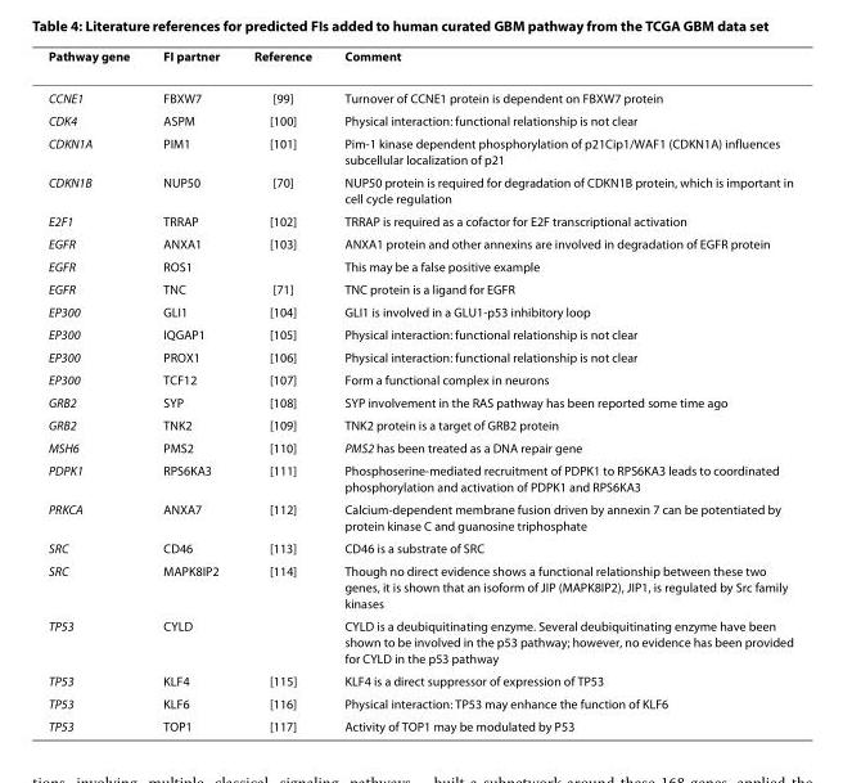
<table><thead><tr><td>Pathway gene</td><td>FI partner</td><td>Reference</td><td>Comment</td></tr></thead><tbody><tr><td>CCNE1</td><td>FBXW7</td><td>[99]</td><td>Turnover of CCNE1 protein is dependent on FBXW7 protein</td></tr><tr><td>CDK4</td><td>ASPM</td><td>[100]</td><td>Physical interaction: functional relationship is not clear</td></tr><tr><td>CDKN1A</td><td>PIM1</td><td>[101]</td><td>Pim-1 kinase dependent phosphorylation of p21Cip1/WAF1 (CDKN1A) influences subcellular localization of p21</td></tr><tr><td>CDKN1B</td><td>NUP50</td><td>[70]</td><td>NUP50 protein is required for degradation of CDKN1B protein, which is important in cell cycle regulation</td></tr><tr><td>E2F1</td><td>TRRAP</td><td>[102]</td><td>TRRAP is required as a cofactor for E2F transcriptional activation</td></tr><tr><td>EGFR</td><td>ANXA1</td><td>[103]</td><td>ANXA1 protein and other annexins are involved in degradation of EGFR protein</td></tr><tr><td>EGFR</td><td>ROS1</td><td></td><td>This may be a false positive example</td></tr><tr><td>EGFR</td><td>TNC</td><td>[71]</td><td>TNC protein is a ligand for EGFR</td></tr><tr><td>EP300</td><td>GLI1</td><td>[104]</td><td>GLI1 is involved in a GLU1-p53 inhibitory loop</td></tr><tr><td>EP300</td><td>IQGAP1</td><td>[105]</td><td>Physical interaction: functional relationship is not clear</td></tr><tr><td>EP300</td><td>PROX1</td><td>[106]</td><td>Physical interaction: functional relationship is not clear</td></tr><tr><td>EP300</td><td>TCF12</td><td>[107]</td><td>Form a functional complex in neurons</td></tr><tr><td>GRB2</td><td>SYP</td><td>[108]</td><td>SYP involvement in the RAS pathway has been reported some time ago</td></tr><tr><td>GRB2</td><td>TNK2</td><td>[109]</td><td>TNK2 protein is a target of GRB2 protein</td></tr><tr><td>MSH6</td><td>PMS2</td><td>[110]</td><td>PMS2 has been treated as a DNA repair gene</td></tr><tr><td>PDPK1</td><td>RPS6KA3</td><td>[111]</td><td>Phosphoserine-mediated recruitment of PDPK1 to RPS6KA3 leads to coordinated phosphorylation and activation of PDPK1 and RPS6KA3</td></tr><tr><td>PRKCA</td><td>ANXA7</td><td>[112]</td><td>Calcium-dependent membrane fusion driven by annexin 7 can be potentiated by protein kinase C and guanosine triphosphate</td></tr><tr><td>SRC</td><td>CD46</td><td>[113]</td><td>CD46 is a substrate of SRC</td></tr><tr><td>SRC</td><td>MAPK8IP2</td><td>[114]</td><td>Though no direct evidence shows a functional relationship between these two genes, it is shown that an isoform of JIP (MAPK8IP2), JIP1, is regulated by Src family kinases</td></tr><tr><td>TP53</td><td>CYLD</td><td></td><td>CYLD is a deubiquitinating enzyme. Several deubiquitinating enzyme have been shown to be involved in the p53 pathway; however, no evidence has been provided for CYLD in the p53 pathway</td></tr><tr><td>TP53</td><td>KLF4</td><td>[115]</td><td>KLF4 is a direct suppressor of expression of TP53</td></tr><tr><td>TP53</td><td>KLF6</td><td>[116]</td><td>Physical interaction: TP53 may enhance the function of KLF6</td></tr><tr><td>TP53</td><td>TOP1</td><td>[117]</td><td>Activity of TOP1 may be modulated by P53</td></tr></tbody></table>